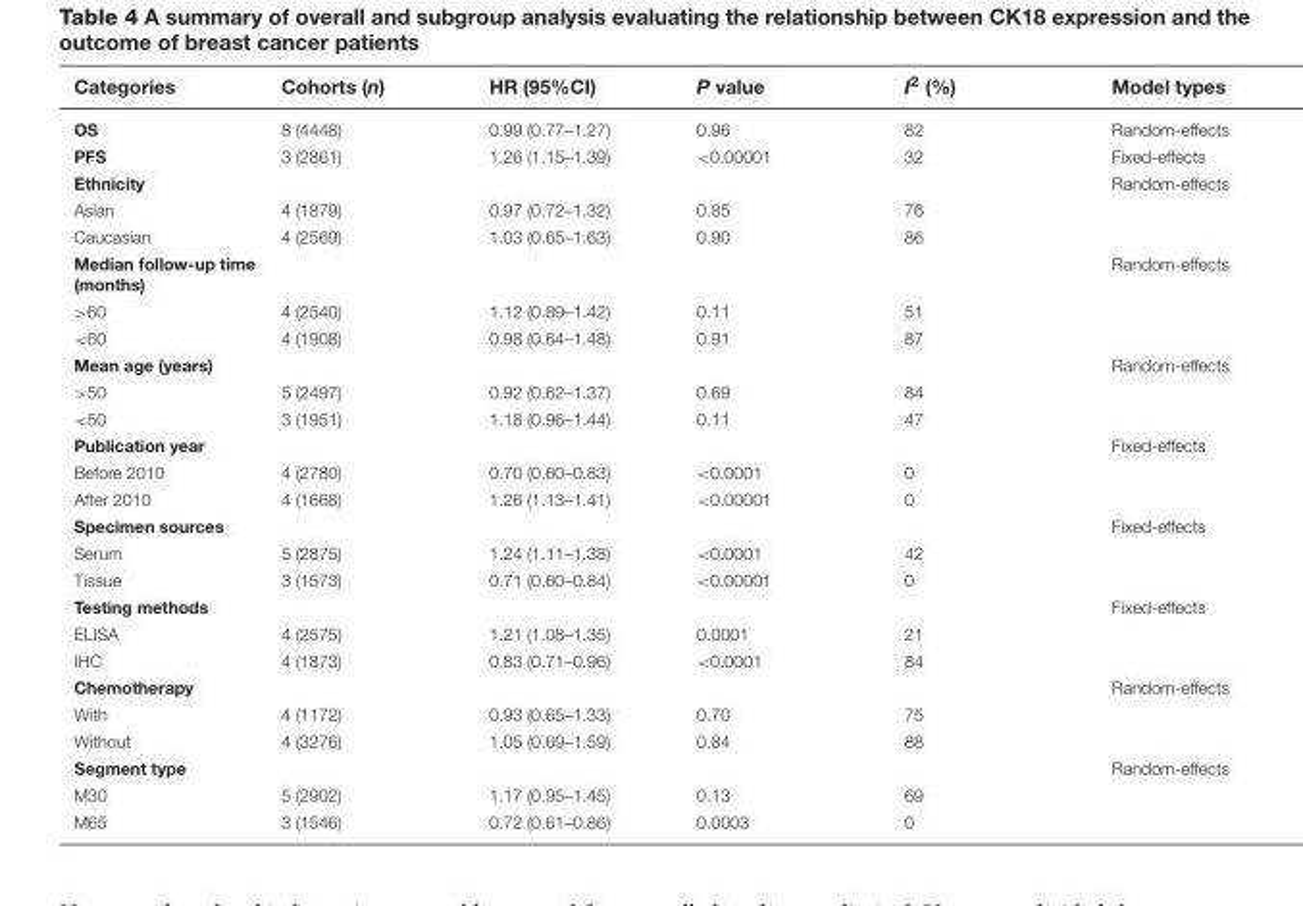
<table><thead><tr><td>Categories</td><td>Cohorts (n)</td><td>HR (95%CI)</td><td>P value</td><td>I<sup>2</sup> (%)</td><td>Model types</td></tr></thead><tbody><tr><td>OS</td><td>8 (4448)</td><td>0.99 (0.77–1.27)</td><td>0.96</td><td>82</td><td>Random-effects</td></tr><tr><td>PFS</td><td>3 (2861)</td><td>1.26 (1.15–1.39)</td><td>&lt;0.00001</td><td>32</td><td>Fixed-effects</td></tr><tr><td>Ethnicity</td><td></td><td></td><td></td><td></td><td>Random-effects</td></tr><tr><td>Asian</td><td>4 (1879)</td><td>0.97 (0.72–1.32)</td><td>0.85</td><td>76</td><td></td></tr><tr><td>Caucasian</td><td>4 (2569)</td><td>1.03 (0.65–1.63)</td><td>0.90</td><td>86</td><td></td></tr><tr><td>Median follow-up time (months)</td><td></td><td></td><td></td><td></td><td>Random-effects</td></tr><tr><td>&gt;60</td><td>4 (2540)</td><td>1.12 (0.89–1.42)</td><td>0.11</td><td>51</td><td></td></tr><tr><td>&lt;60</td><td>4 (1908)</td><td>0.98 (0.64–1.48)</td><td>0.91</td><td>87</td><td></td></tr><tr><td>Mean age (years)</td><td></td><td></td><td></td><td></td><td>Random-effects</td></tr><tr><td>&gt;50</td><td>5 (2497)</td><td>0.92 (0.62–1.37)</td><td>0.69</td><td>84</td><td></td></tr><tr><td>&lt;50</td><td>3 (1951)</td><td>1.18 (0.96–1.44)</td><td>0.11</td><td>47</td><td></td></tr><tr><td>Publication year</td><td></td><td></td><td></td><td></td><td>Fixed-effects</td></tr><tr><td>Before 2010</td><td>4 (2780)</td><td>0.70 (0.60–0.83)</td><td>&lt;0.0001</td><td>0</td><td></td></tr><tr><td>After 2010</td><td>4 (1668)</td><td>1.26 (1.13–1.41)</td><td>&lt;0.00001</td><td>0</td><td></td></tr><tr><td>Specimen sources</td><td></td><td></td><td></td><td></td><td>Fixed-effects</td></tr><tr><td>Serum</td><td>5 (2875)</td><td>1.24 (1.11–1.38)</td><td>&lt;0.0001</td><td>42</td><td></td></tr><tr><td>Tissue</td><td>3 (1573)</td><td>0.71 (0.60–0.84)</td><td>&lt;0.00001</td><td>0</td><td></td></tr><tr><td>Testing methods</td><td></td><td></td><td></td><td></td><td>Fixed-effects</td></tr><tr><td>ELISA</td><td>4 (2575)</td><td>1.21 (1.08–1.35)</td><td>0.0001</td><td>21</td><td></td></tr><tr><td>IHC</td><td>4 (1873)</td><td>0.83 (0.71–0.96)</td><td>&lt;0.0001</td><td>84</td><td></td></tr><tr><td>Chemotherapy</td><td></td><td></td><td></td><td></td><td>Random-effects</td></tr><tr><td>With</td><td>4 (1172)</td><td>0.93 (0.65–1.33)</td><td>0.70</td><td>75</td><td></td></tr><tr><td>Without</td><td>4 (3276)</td><td>1.05 (0.69–1.59)</td><td>0.84</td><td>88</td><td></td></tr><tr><td>Segment type</td><td></td><td></td><td></td><td></td><td>Random-effects</td></tr><tr><td>M30</td><td>5 (2902)</td><td>1.17 (0.95–1.45)</td><td>0.13</td><td>69</td><td></td></tr><tr><td>M65</td><td>3 (1546)</td><td>0.72 (0.61–0.86)</td><td>0.0003</td><td>0</td><td></td></tr></tbody></table>